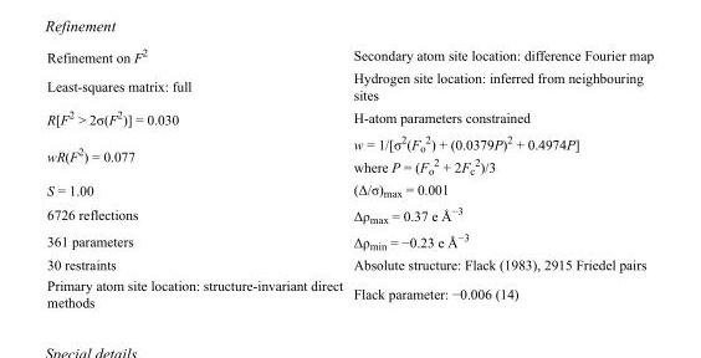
<table><tbody><tr><td>Refinement on F<sup>2</sup></td><td>Secondary atom site location: difference Fourier map</td></tr><tr><td>Least-squares matrix: full</td><td>Hydrogen site location: inferred from neighbouring sites</td></tr><tr><td>R[F<sup>2</sup> &gt; 2σ(F<sup>2</sup>)] = 0.030</td><td>H-atom parameters constrained</td></tr><tr><td>wR(F<sup>2</sup>) = 0.077</td><td>w = 1/[σ<sup>2</sup>(F<sub>o</sub> <sup>2</sup>) + (0.0379P)<sup>2</sup> + 0.4974P] where P = (F<sub>o</sub> <sup>2</sup> + 2F<sub>c</sub> <sup>2</sup>)/3</td></tr><tr><td>S = 1.00</td><td>(Δ/σ)<sub>max</sub> = 0.001</td></tr><tr><td>6726 reflections</td><td>Δρ<sub>max</sub> = 0.37 e Å<sup>−3</sup></td></tr><tr><td>361 parameters</td><td>Δρ<sub>min</sub> = −0.23 e Å<sup>−3</sup></td></tr><tr><td>30 restraints</td><td>Absolute structure: Flack (1983), 2915 Friedel pairs</td></tr><tr><td>Primary atom site location: structure-invariant direct methods</td><td>Flack parameter: −0.006 (14)</td></tr></tbody></table>